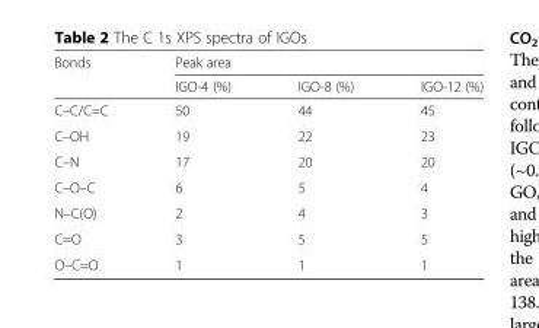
<table><thead><tr><td rowspan="2">Bonds</td><td colspan="3">Peak area</td></tr><tr><td>IGO-4 (%)</td><td>IGO-8 (%)</td><td>IGO-12 (%)</td></tr></thead><tbody><tr><td>C–C/C=C</td><td>50</td><td>44</td><td>45</td></tr><tr><td>C–OH</td><td>19</td><td>22</td><td>23</td></tr><tr><td>C–N</td><td>17</td><td>20</td><td>20</td></tr><tr><td>C–O–C</td><td>6</td><td>5</td><td>4</td></tr><tr><td>N–C(O)</td><td>2</td><td>4</td><td>3</td></tr><tr><td>C=O</td><td>3</td><td>5</td><td>5</td></tr><tr><td>O–C=O</td><td>1</td><td>1</td><td>1</td></tr></tbody></table>